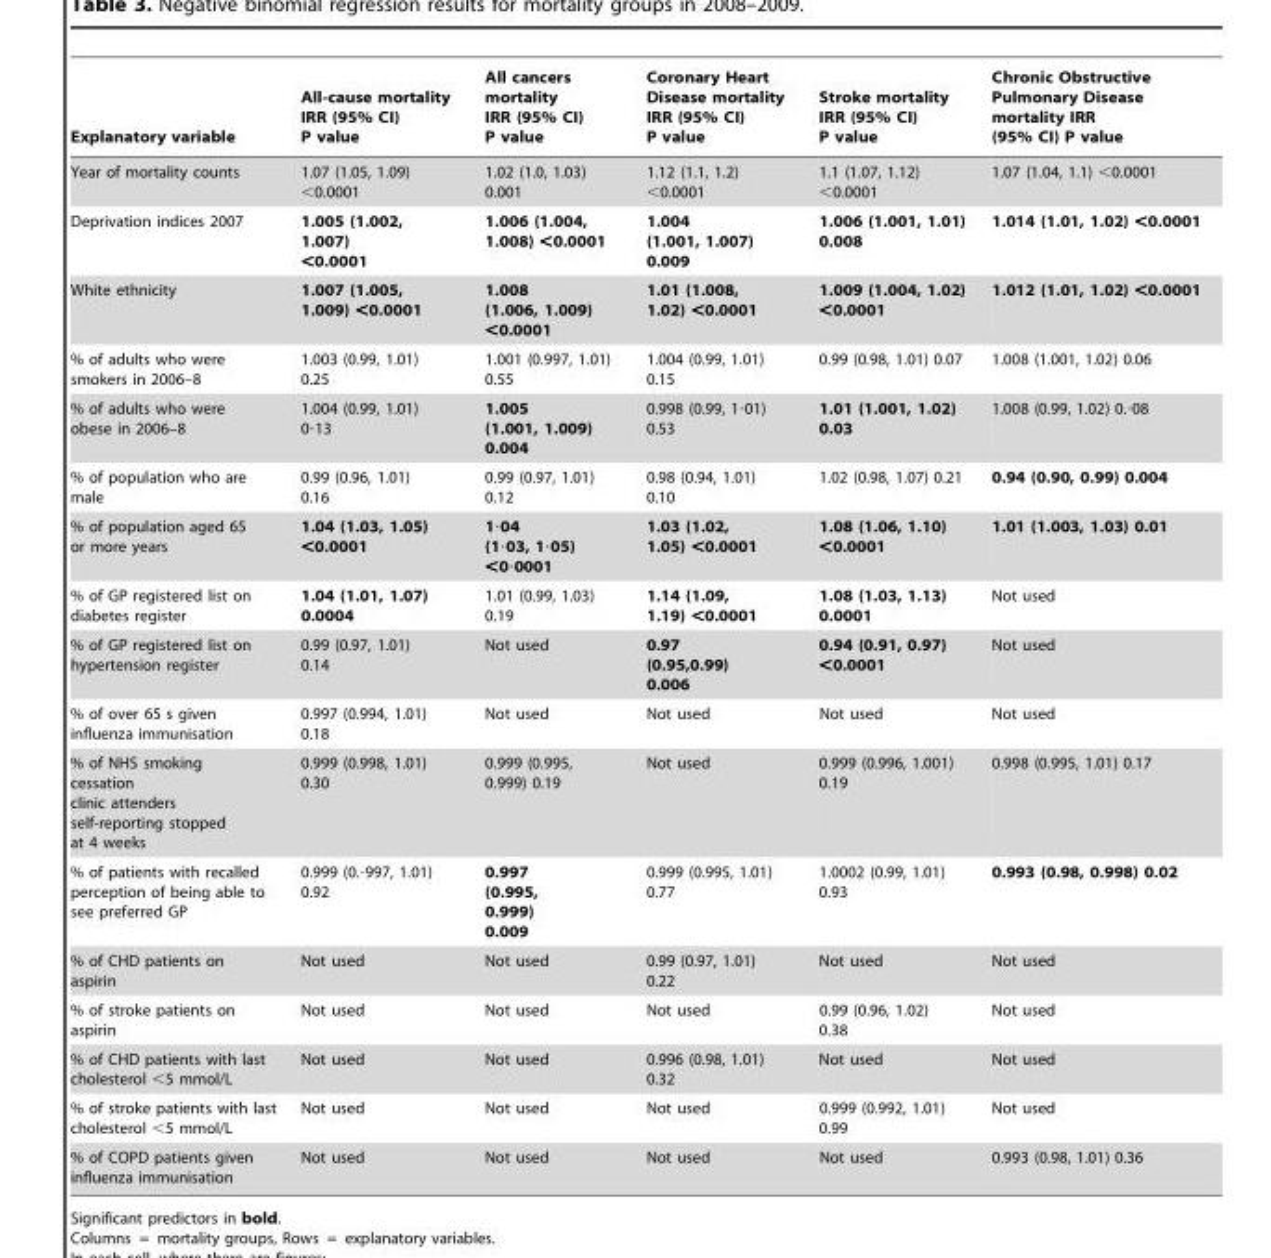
<table><thead><tr><td>Explanatory variable</td><td>All-cause mortality IRR (95% CI) P value</td><td>All cancers mortality IRR (95% CI) P value</td><td>Coronary Heart Disease mortality IRR (95% CI) P value</td><td>Stroke mortality IRR (95% CI) P value</td><td>Chronic Obstructive Pulmonary Disease mortality IRR (95% CI) P value</td></tr></thead><tbody><tr><td>Year of mortality counts</td><td>1.07 (1.05, 1.09) &lt;0.0001</td><td>1.02 (1.0, 1.03) 0.001</td><td>1.12 (1.1, 1.2) &lt;0.0001</td><td>1.1 (1.07, 1.12) &lt;0.0001</td><td>1.07 (1.04, 1.1) &lt;0.0001</td></tr><tr><td>Deprivation indices 2007</td><td>1.005 (1.002, 1.007) &lt;0.0001</td><td>1.006 (1.004, 1.008) &lt;0.0001</td><td>1.004 (1.001, 1.007) 0.009</td><td>1.006 (1.001, 1.01) 0.008</td><td>1.014 (1.01, 1.02) &lt;0.0001</td></tr><tr><td>White ethnicity</td><td>1.007 (1.005, 1.009) &lt;0.0001</td><td>1.008 (1.006, 1.009) &lt;0.0001</td><td>1.01 (1.008, 1.02) &lt;0.0001</td><td>1.009 (1.004, 1.02) &lt;0.0001</td><td>1.012 (1.01, 1.02) &lt;0.0001</td></tr><tr><td>% of adults who were smokers in 2006–8</td><td>1.003 (0.99, 1.01) 0.25</td><td>1.001 (0.997, 1.01) 0.55</td><td>1.004 (0.99, 1.01) 0.15</td><td>0.99 (0.98, 1.01) 0.07</td><td>1.008 (1.001, 1.02) 0.06</td></tr><tr><td>% of adults who were obese in 2006–8</td><td>1.004 (0.99, 1.01) 0·13</td><td>1.005 (1.001, 1.009) 0.004</td><td>0.998 (0.99, 1·01) 0.53</td><td>1.01 (1.001, 1.02) 0.03</td><td>1.008 (0.99, 1.02) 0.·08</td></tr><tr><td>% of population who are male</td><td>0.99 (0.96, 1.01) 0.16</td><td>0.99 (0.97, 1.01) 0.12</td><td>0.98 (0.94, 1.01) 0.10</td><td>1.02 (0.98, 1.07) 0.21</td><td>0.94 (0.90, 0.99) 0.004</td></tr><tr><td>% of population aged 65 or more years</td><td>1.04 (1.03, 1.05) &lt;0.0001</td><td>1·04 (1·03, 1·05) &lt;0·0001</td><td>1.03 (1.02, 1.05) &lt;0.0001</td><td>1.08 (1.06, 1.10) &lt;0.0001</td><td>1.01 (1.003, 1.03) 0.01</td></tr><tr><td>% of GP registered list on diabetes register</td><td>1.04 (1.01, 1.07) 0.0004</td><td>1.01 (0.99, 1.03) 0.19</td><td>1.14 (1.09, 1.19) &lt;0.0001</td><td>1.08 (1.03, 1.13) 0.0001</td><td>Not used</td></tr><tr><td>% of GP registered list on hypertension register</td><td>0.99 (0.97, 1.01) 0.14</td><td>Not used</td><td>0.97 (0.95,0.99) 0.006</td><td>0.94 (0.91, 0.97) &lt;0.0001</td><td>Not used</td></tr><tr><td>% of over 65 s given influenza immunisation</td><td>0.997 (0.994, 1.01) 0.18</td><td>Not used</td><td>Not used</td><td>Not used</td><td>Not used</td></tr><tr><td>% of NHS smoking cessation clinic attenders self-reporting stopped at 4 weeks</td><td>0.999 (0.998, 1.01) 0.30</td><td>0.999 (0.995, 0.999) 0.19</td><td>Not used</td><td>0.999 (0.996, 1.001) 0.19</td><td>0.998 (0.995, 1.01) 0.17</td></tr><tr><td>% of patients with recalled perception of being able to see preferred GP</td><td>0.999 (0.·997, 1.01) 0.92</td><td>0.997 (0.995, 0.999) 0.009</td><td>0.999 (0.995, 1.01) 0.77</td><td>1.0002 (0.99, 1.01) 0.93</td><td>0.993 (0.98, 0.998) 0.02</td></tr><tr><td>% of CHD patients on aspirin</td><td>Not used</td><td>Not used</td><td>0.99 (0.97, 1.01) 0.22</td><td>Not used</td><td>Not used</td></tr><tr><td>% of stroke patients on aspirin</td><td>Not used</td><td>Not used</td><td>Not used</td><td>0.99 (0.96, 1.02) 0.38</td><td>Not used</td></tr><tr><td>% of CHD patients with last cholesterol &lt;5 mmol/L</td><td>Not used</td><td>Not used</td><td>0.996 (0.98, 1.01) 0.32</td><td>Not used</td><td>Not used</td></tr><tr><td>% of stroke patients with last cholesterol &lt;5 mmol/L</td><td>Not used</td><td>Not used</td><td>Not used</td><td>0.999 (0.992, 1.01) 0.99</td><td>Not used</td></tr><tr><td>% of COPD patients given influenza immunisation</td><td>Not used</td><td>Not used</td><td>Not used</td><td>Not used</td><td>0.993 (0.98, 1.01) 0.36</td></tr></tbody></table>